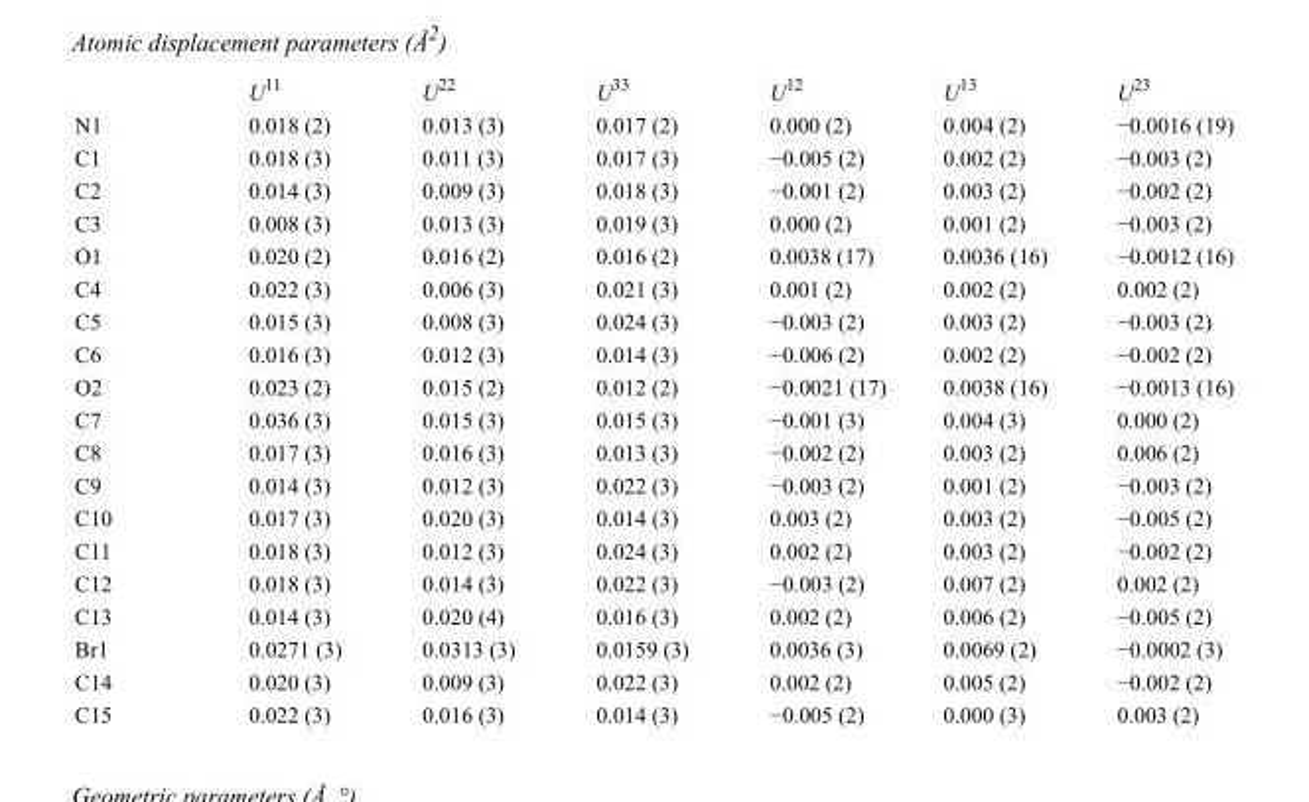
<table><thead><tr><td></td><td>U<sup>11</sup></td><td>U<sup>22</sup></td><td>U<sup>33</sup></td><td>U<sup>12</sup></td><td>U<sup>13</sup></td><td>U<sup>23</sup></td></tr></thead><tbody><tr><td>N1</td><td>0.018 (2)</td><td>0.013 (3)</td><td>0.017 (2)</td><td>0.000 (2)</td><td>0.004 (2)</td><td>−0.0016 (19)</td></tr><tr><td>C1</td><td>0.018 (3)</td><td>0.011 (3)</td><td>0.017 (3)</td><td>−0.005 (2)</td><td>0.002 (2)</td><td>−0.003 (2)</td></tr><tr><td>C2</td><td>0.014 (3)</td><td>0.009 (3)</td><td>0.018 (3)</td><td>−0.001 (2)</td><td>0.003 (2)</td><td>−0.002 (2)</td></tr><tr><td>C3</td><td>0.008 (3)</td><td>0.013 (3)</td><td>0.019 (3)</td><td>0.000 (2)</td><td>0.001 (2)</td><td>−0.003 (2)</td></tr><tr><td>O1</td><td>0.020 (2)</td><td>0.016 (2)</td><td>0.016 (2)</td><td>0.0038 (17)</td><td>0.0036 (16)</td><td>−0.0012 (16)</td></tr><tr><td>C4</td><td>0.022 (3)</td><td>0.006 (3)</td><td>0.021 (3)</td><td>0.001 (2)</td><td>0.002 (2)</td><td>0.002 (2)</td></tr><tr><td>C5</td><td>0.015 (3)</td><td>0.008 (3)</td><td>0.024 (3)</td><td>−0.003 (2)</td><td>0.003 (2)</td><td>−0.003 (2)</td></tr><tr><td>C6</td><td>0.016 (3)</td><td>0.012 (3)</td><td>0.014 (3)</td><td>−0.006 (2)</td><td>0.002 (2)</td><td>−0.002 (2)</td></tr><tr><td>O2</td><td>0.023 (2)</td><td>0.015 (2)</td><td>0.012 (2)</td><td>−0.0021 (17)</td><td>0.0038 (16)</td><td>−0.0013 (16)</td></tr><tr><td>C7</td><td>0.036 (3)</td><td>0.015 (3)</td><td>0.015 (3)</td><td>−0.001 (3)</td><td>0.004 (3)</td><td>0.000 (2)</td></tr><tr><td>C8</td><td>0.017 (3)</td><td>0.016 (3)</td><td>0.013 (3)</td><td>−0.002 (2)</td><td>0.003 (2)</td><td>0.006 (2)</td></tr><tr><td>C9</td><td>0.014 (3)</td><td>0.012 (3)</td><td>0.022 (3)</td><td>−0.003 (2)</td><td>0.001 (2)</td><td>−0.003 (2)</td></tr><tr><td>C10</td><td>0.017 (3)</td><td>0.020 (3)</td><td>0.014 (3)</td><td>0.003 (2)</td><td>0.003 (2)</td><td>−0.005 (2)</td></tr><tr><td>C11</td><td>0.018 (3)</td><td>0.012 (3)</td><td>0.024 (3)</td><td>0.002 (2)</td><td>0.003 (2)</td><td>−0.002 (2)</td></tr><tr><td>C12</td><td>0.018 (3)</td><td>0.014 (3)</td><td>0.022 (3)</td><td>−0.003 (2)</td><td>0.007 (2)</td><td>0.002 (2)</td></tr><tr><td>C13</td><td>0.014 (3)</td><td>0.020 (4)</td><td>0.016 (3)</td><td>0.002 (2)</td><td>0.006 (2)</td><td>−0.005 (2)</td></tr><tr><td>Br1</td><td>0.0271 (3)</td><td>0.0313 (3)</td><td>0.0159 (3)</td><td>0.0036 (3)</td><td>0.0069 (2)</td><td>−0.0002 (3)</td></tr><tr><td>C14</td><td>0.020 (3)</td><td>0.009 (3)</td><td>0.022 (3)</td><td>0.002 (2)</td><td>0.005 (2)</td><td>−0.002 (2)</td></tr><tr><td>C15</td><td>0.022 (3)</td><td>0.016 (3)</td><td>0.014 (3)</td><td>−0.005 (2)</td><td>0.000 (3)</td><td>0.003 (2)</td></tr></tbody></table>